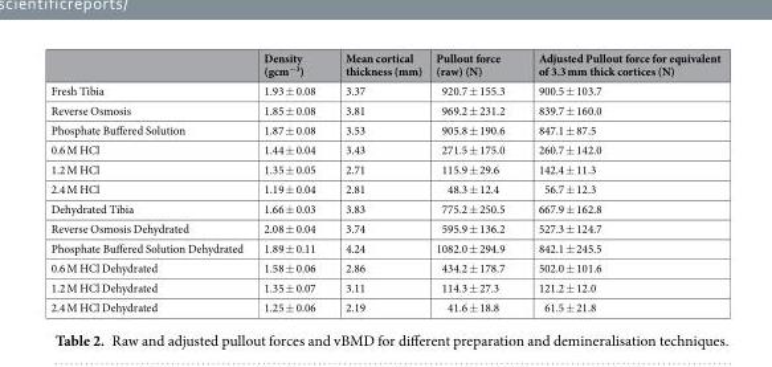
<table><thead><tr><td></td><td>Density (gcm<sup>−3</sup>)</td><td>Mean cortical thickness (mm)</td><td>Pullout force (raw) (N)</td><td>Adjusted Pullout force for equivalent of 3.3 mm thick cortices (N)</td></tr></thead><tbody><tr><td>Fresh Tibia</td><td>1.93 ± 0.08</td><td>3.37</td><td>920.7 ± 155.3</td><td>900.5 ± 103.7</td></tr><tr><td>Reverse Osmosis</td><td>1.85 ± 0.08</td><td>3.81</td><td>969.2 ± 231.2</td><td>839.7 ± 160.0</td></tr><tr><td>Phosphate Buffered Solution</td><td>1.87 ± 0.08</td><td>3.53</td><td>905.8 ± 190.6</td><td>847.1 ± 87.5</td></tr><tr><td>0.6 M HCl</td><td>1.44 ± 0.04</td><td>3.43</td><td>271.5 ± 175.0</td><td>260.7 ± 142.0</td></tr><tr><td>1.2 M HCl</td><td>1.35 ± 0.05</td><td>2.71</td><td>115.9 ± 29.6</td><td>142.4 ± 11.3</td></tr><tr><td>2.4 M HCl</td><td>1.19 ± 0.04</td><td>2.81</td><td>48.3 ± 12.4</td><td>56.7 ± 12.3</td></tr><tr><td>Dehydrated Tibia</td><td>1.66 ± 0.03</td><td>3.83</td><td>775.2 ± 250.5</td><td>667.9 ± 162.8</td></tr><tr><td>Reverse Osmosis Dehydrated</td><td>2.08 ± 0.04</td><td>3.74</td><td>595.9 ± 136.2</td><td>527.3 ± 124.7</td></tr><tr><td>Phosphate Buffered Solution Dehydrated</td><td>1.89 ± 0.11</td><td>4.24</td><td>1082.0 ± 294.9</td><td>842.1 ± 245.5</td></tr><tr><td>0.6 M HCl Dehydrated</td><td>1.58 ± 0.06</td><td>2.86</td><td>434.2 ± 178.7</td><td>502.0 ± 101.6</td></tr><tr><td>1.2 M HCl Dehydrated</td><td>1.35 ± 0.07</td><td>3.11</td><td>114.3 ± 27.3</td><td>121.2 ± 12.0</td></tr><tr><td>2.4 M HCl Dehydrated</td><td>1.25 ± 0.06</td><td>2.19</td><td>41.6 ± 18.8</td><td>61.5 ± 21.8</td></tr></tbody></table>